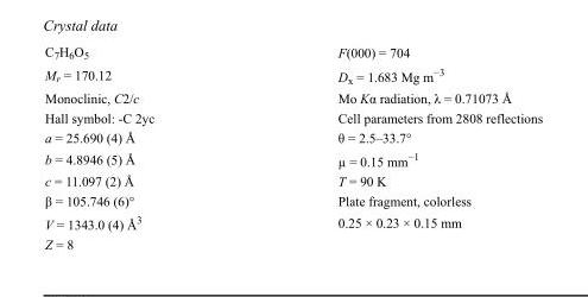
<table><tbody><tr><td>C<sub>7</sub>H<sub>6</sub>O<sub>5</sub></td><td>F(000) = 704</td></tr><tr><td>M<sub>r</sub> = 170.12</td><td>D<sub>x</sub> = 1.683 Mg m<sup>−3</sup></td></tr><tr><td>Monoclinic, C2/c</td><td>Mo Kα radiation, λ = 0.71073 Å</td></tr><tr><td>Hall symbol: -C 2yc</td><td>Cell parameters from 2808 reflections</td></tr><tr><td>a = 25.690 (4) Å</td><td>θ = 2.5–33.7°</td></tr><tr><td>b = 4.8946 (5) Å</td><td>µ = 0.15 mm<sup>−1</sup></td></tr><tr><td>c = 11.097 (2) Å</td><td>T = 90 K</td></tr><tr><td>β = 105.746 (6)°</td><td>Plate fragment, colorless</td></tr><tr><td>V = 1343.0 (4) Å<sup>3</sup></td><td>0.25 × 0.23 × 0.15 mm</td></tr><tr><td>Z = 8</td><td></td></tr></tbody></table>